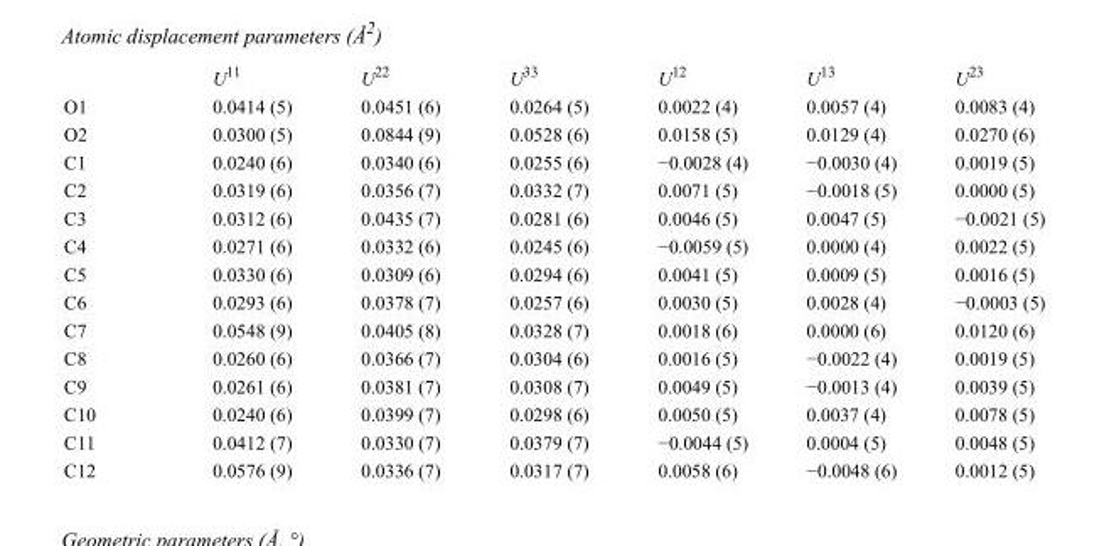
<table><thead><tr><td></td><td>U<sup>11</sup></td><td>U<sup>22</sup></td><td>U<sup>33</sup></td><td>U<sup>12</sup></td><td>U<sup>13</sup></td><td>U<sup>23</sup></td></tr></thead><tbody><tr><td>O1</td><td>0.0414 (5)</td><td>0.0451 (6)</td><td>0.0264 (5)</td><td>0.0022 (4)</td><td>0.0057 (4)</td><td>0.0083 (4)</td></tr><tr><td>O2</td><td>0.0300 (5)</td><td>0.0844 (9)</td><td>0.0528 (6)</td><td>0.0158 (5)</td><td>0.0129 (4)</td><td>0.0270 (6)</td></tr><tr><td>C1</td><td>0.0240 (6)</td><td>0.0340 (6)</td><td>0.0255 (6)</td><td>−0.0028 (4)</td><td>−0.0030 (4)</td><td>0.0019 (5)</td></tr><tr><td>C2</td><td>0.0319 (6)</td><td>0.0356 (7)</td><td>0.0332 (7)</td><td>0.0071 (5)</td><td>−0.0018 (5)</td><td>0.0000 (5)</td></tr><tr><td>C3</td><td>0.0312 (6)</td><td>0.0435 (7)</td><td>0.0281 (6)</td><td>0.0046 (5)</td><td>0.0047 (5)</td><td>−0.0021 (5)</td></tr><tr><td>C4</td><td>0.0271 (6)</td><td>0.0332 (6)</td><td>0.0245 (6)</td><td>−0.0059 (5)</td><td>0.0000 (4)</td><td>0.0022 (5)</td></tr><tr><td>C5</td><td>0.0330 (6)</td><td>0.0309 (6)</td><td>0.0294 (6)</td><td>0.0041 (5)</td><td>0.0009 (5)</td><td>0.0016 (5)</td></tr><tr><td>C6</td><td>0.0293 (6)</td><td>0.0378 (7)</td><td>0.0257 (6)</td><td>0.0030 (5)</td><td>0.0028 (4)</td><td>−0.0003 (5)</td></tr><tr><td>C7</td><td>0.0548 (9)</td><td>0.0405 (8)</td><td>0.0328 (7)</td><td>0.0018 (6)</td><td>0.0000 (6)</td><td>0.0120 (6)</td></tr><tr><td>C8</td><td>0.0260 (6)</td><td>0.0366 (7)</td><td>0.0304 (6)</td><td>0.0016 (5)</td><td>−0.0022 (4)</td><td>0.0019 (5)</td></tr><tr><td>C9</td><td>0.0261 (6)</td><td>0.0381 (7)</td><td>0.0308 (7)</td><td>0.0049 (5)</td><td>−0.0013 (4)</td><td>0.0039 (5)</td></tr><tr><td>C10</td><td>0.0240 (6)</td><td>0.0399 (7)</td><td>0.0298 (6)</td><td>0.0050 (5)</td><td>0.0037 (4)</td><td>0.0078 (5)</td></tr><tr><td>C11</td><td>0.0412 (7)</td><td>0.0330 (7)</td><td>0.0379 (7)</td><td>−0.0044 (5)</td><td>0.0004 (5)</td><td>0.0048 (5)</td></tr><tr><td>C12</td><td>0.0576 (9)</td><td>0.0336 (7)</td><td>0.0317 (7)</td><td>0.0058 (6)</td><td>−0.0048 (6)</td><td>0.0012 (5)</td></tr></tbody></table>